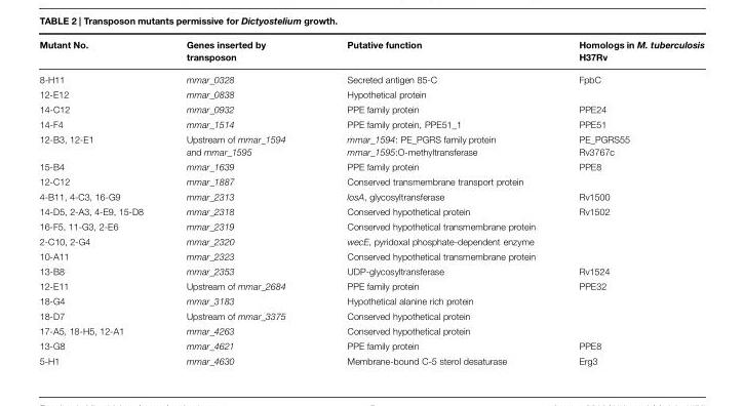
<table><thead><tr><td>Mutant No.</td><td>Genes inserted by transposon</td><td>Putative function</td><td>Homologs in M. tuberculosis H37Rv</td></tr></thead><tbody><tr><td>8-H11</td><td>mmar_0328</td><td>Secreted antigen 85-C</td><td>FpbC</td></tr><tr><td>12-E12</td><td>mmar_0838</td><td>Hypothetical protein</td><td></td></tr><tr><td>14-C12</td><td>mmar_0932</td><td>PPE family protein</td><td>PPE24</td></tr><tr><td>14-F4</td><td>mmar_1514</td><td>PPE family protein, PPE51_1</td><td>PPE51</td></tr><tr><td>12-B3, 12-E1</td><td>Upstream of mmar_1594 and mmar_1595</td><td>mmar_1594: PE_PGRS family protein mmar_1595:O-methyltransferase</td><td>PE_PGRS55 Rv3767c</td></tr><tr><td>15-B4</td><td>mmar_1639</td><td>PPE family protein</td><td>PPE8</td></tr><tr><td>12-C12</td><td>mmar_1887</td><td>Conserved transmembrane transport protein</td><td></td></tr><tr><td>4-B11, 4-C3, 16-G9</td><td>mmar_2313</td><td>losA, glycosyltransferase</td><td>Rv1500</td></tr><tr><td>14-D5, 2-A3, 4-E9, 15-D8</td><td>mmar_2318</td><td>Conserved hypothetical protein</td><td>Rv1502</td></tr><tr><td>16-F5, 11-G3, 2-E6</td><td>mmar_2319</td><td>Conserved hypothetical transmembrane protein</td><td></td></tr><tr><td>2-C10, 2-G4</td><td>mmar_2320</td><td>wecE, pyridoxal phosphate-dependent enzyme</td><td></td></tr><tr><td>10-A11</td><td>mmar_2323</td><td>Conserved hypothetical transmembrane protein</td><td></td></tr><tr><td>13-B8</td><td>mmar_2353</td><td>UDP-glycosyltransferase</td><td>Rv1524</td></tr><tr><td>12-E11</td><td>Upstream of mmar_2684</td><td>PPE family protein</td><td>PPE32</td></tr><tr><td>18-G4</td><td>mmar_3183</td><td>Hypothetical alanine rich protein</td><td></td></tr><tr><td>18-D7</td><td>Upstream of mmar_3375</td><td>Conserved hypothetical protein</td><td></td></tr><tr><td>17-A5, 18-H5, 12-A1</td><td>mmar_4263</td><td>Conserved hypothetical protein</td><td></td></tr><tr><td>13-G8</td><td>mmar_4621</td><td>PPE family protein</td><td>PPE8</td></tr><tr><td>5-H1</td><td>mmar_4630</td><td>Membrane-bound C-5 sterol desaturase</td><td>Erg3</td></tr></tbody></table>